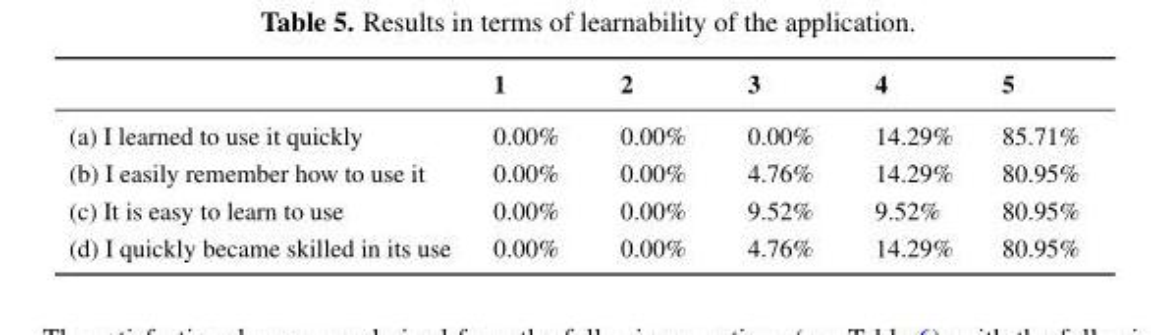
<table><thead><tr><td></td><td>1</td><td>2</td><td>3</td><td>4</td><td>5</td></tr></thead><tbody><tr><td>(a) I learned to use it quickly</td><td>0.00%</td><td>0.00%</td><td>0.00%</td><td>14.29%</td><td>85.71%</td></tr><tr><td>(b) I easily remember how to use it</td><td>0.00%</td><td>0.00%</td><td>4.76%</td><td>14.29%</td><td>80.95%</td></tr><tr><td>(c) It is easy to learn to use</td><td>0.00%</td><td>0.00%</td><td>9.52%</td><td>9.52%</td><td>80.95%</td></tr><tr><td>(d) I quickly became skilled in its use</td><td>0.00%</td><td>0.00%</td><td>4.76%</td><td>14.29%</td><td>80.95%</td></tr></tbody></table>